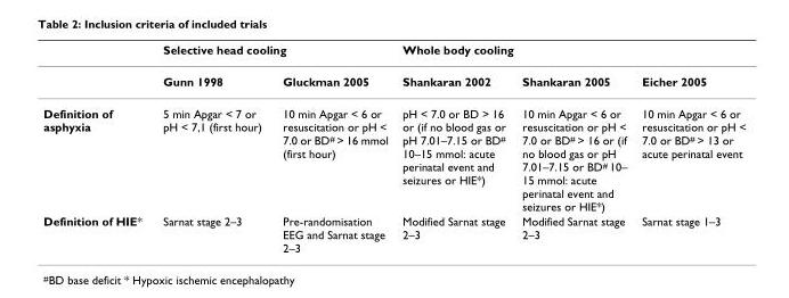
<table><thead><tr><td rowspan="2"></td><td colspan="2">Selective head cooling</td><td colspan="3">Whole body cooling</td></tr><tr><td>Gunn 1998</td><td>Gluckman 2005</td><td>Shankaran 2002</td><td>Shankaran 2005</td><td>Eicher 2005</td></tr></thead><tbody><tr><td>Definition of asphyxia</td><td>5 min Apgar &lt; 7 or pH &lt; 7,1 (first hour)</td><td>10 min Apgar &lt; 6 or resuscitation or pH &lt; 7.0 or BD<sup>#</sup> &gt; 16 mmol (first hour)</td><td>pH &lt; 7.0 or BD &gt; 16 or (if no blood gas or pH 7.01–7.15 or BD<sup>#</sup> 10–15 mmol: acute perinatal event and seizures or HIE*)</td><td>10 min Apgar &lt; 6 or resuscitation or pH &lt; 7.0 or BD<sup>#</sup> &gt; 16 or (if no blood gas or pH 7.01–7.15 or BD<sup>#</sup> 10– 15 mmol: acute perinatal event and seizures or HIE*)</td><td>10 min Apgar &lt; 6 or resuscitation or pH &lt; 7.0 or BD<sup>#</sup> &gt; 13 or acute perinatal event</td></tr><tr><td>Definition of HIE*</td><td>Sarnat stage 2–3</td><td>Pre-randomisation EEG and Sarnat stage 2–3</td><td>Modified Sarnat stage 2–3</td><td>Modified Sarnat stage 2–3</td><td>Sarnat stage 1–3</td></tr></tbody></table>